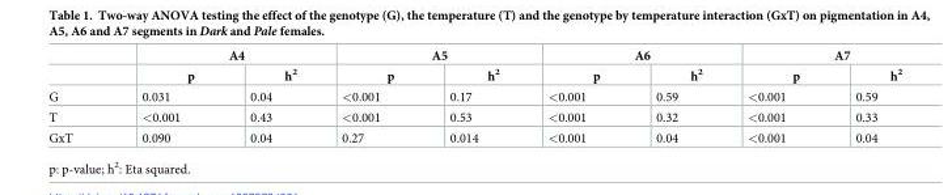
<table><thead><tr><td rowspan="2"></td><td colspan="2">A4</td><td colspan="2">A5</td><td colspan="2">A6</td><td colspan="2">A7</td></tr><tr><td>p</td><td>h<sup>2</sup></td><td>p</td><td>h<sup>2</sup></td><td>p</td><td>h<sup>2</sup></td><td>p</td><td>h<sup>2</sup></td></tr></thead><tbody><tr><td>G</td><td>0.031</td><td>0.04</td><td>&lt;0.001</td><td>0.17</td><td>&lt;0.001</td><td>0.59</td><td>&lt;0.001</td><td>0.59</td></tr><tr><td>T</td><td>&lt;0.001</td><td>0.43</td><td>&lt;0.001</td><td>0.53</td><td>&lt;0.001</td><td>0.32</td><td>&lt;0.001</td><td>0.33</td></tr><tr><td>GxT</td><td>0.090</td><td>0.04</td><td>0.27</td><td>0.014</td><td>&lt;0.001</td><td>0.04</td><td>&lt;0.001</td><td>0.04</td></tr></tbody></table>